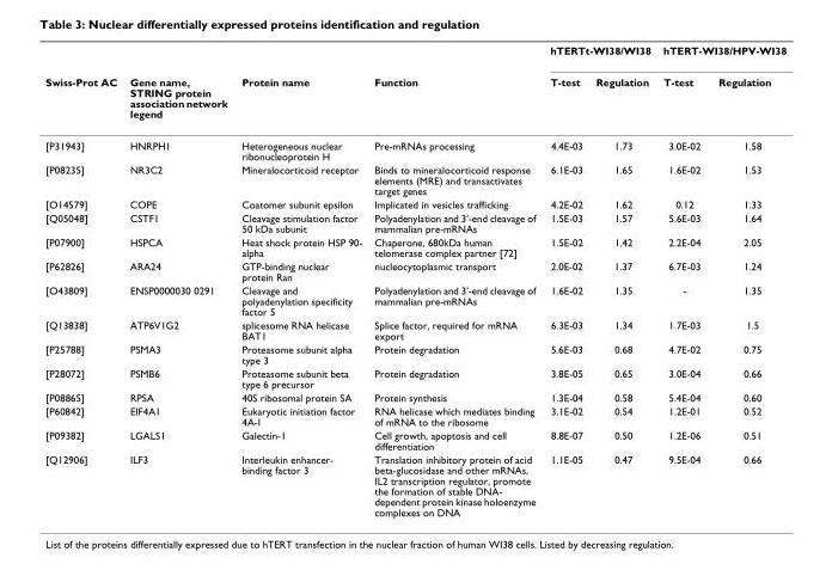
<table><thead><tr><td rowspan="2">Swiss-Prot AC</td><td rowspan="2">Gene name, STRING protein association network legend</td><td rowspan="2">Protein name</td><td rowspan="2">Function</td><td colspan="2">hTERTt-WI38/WI38</td><td colspan="2">hTERT-WI38/HPV-WI38</td></tr><tr><td>T-test</td><td>Regulation</td><td>T-test</td><td>Regulation</td></tr></thead><tbody><tr><td>[P31943]</td><td>HNRPH1</td><td>Heterogeneous nuclear ribonucleoprotein H</td><td>Pre-mRNAs processing</td><td>4.4E-03</td><td>1.73</td><td>3.0E-02</td><td>1.58</td></tr><tr><td>[P08235]</td><td>NR3C2</td><td>Mineralocorticoid receptor</td><td>Binds to mineralocorticoid response elements (MRE) and transactivates target genes</td><td>6.1E-03</td><td>1.65</td><td>1.6E-02</td><td>1.53</td></tr><tr><td>[O14579]</td><td>COPE</td><td>Coatomer subunit epsilon</td><td>Implicated in vesicles trafficking</td><td>4.2E-02</td><td>1.62</td><td>0.12</td><td>1.33</td></tr><tr><td>[Q05048]</td><td>CSTF1</td><td>Cleavage stimulation factor 50 kDa subunit</td><td>Polyadenylation and 3&#x27;-end cleavage of mammalian pre-mRNAs</td><td>1.5E-03</td><td>1.57</td><td>5.6E-03</td><td>1.64</td></tr><tr><td>[P07900]</td><td>HSPCA</td><td>Heat shock protein HSP 90- alpha</td><td>Chaperone, 680kDa human telomerase complex partner [72]</td><td>1.5E-02</td><td>1.42</td><td>2.2E-04</td><td>2.05</td></tr><tr><td>[P62826]</td><td>ARA24</td><td>GTP-binding nuclear protein Ran</td><td>nucleocytoplasmic transport</td><td>2.0E-02</td><td>1.37</td><td>6.7E-03</td><td>1.24</td></tr><tr><td>[O43809]</td><td>ENSP0000030 0291</td><td>Cleavage and polyadenylation specificity factor 5</td><td>Polyadenylation and 3&#x27;-end cleavage of mammalian pre-mRNAs</td><td>1.6E-02</td><td>1.35</td><td>-</td><td>1.35</td></tr><tr><td>[Q13838]</td><td>ATP6V1G2</td><td>splicesome RNA helicase BAT1</td><td>Splice factor, required for mRNA export</td><td>6.3E-03</td><td>1.34</td><td>1.7E-03</td><td>1.5</td></tr><tr><td>[P25788]</td><td>PSMA3</td><td>Proteasome subunit alpha type 3</td><td>Protein degradation</td><td>5.6E-03</td><td>0.68</td><td>4.7E-02</td><td>0.75</td></tr><tr><td>[P28072]</td><td>PSMB6</td><td>Proteasome subunit beta type 6 precursor</td><td>Protein degradation</td><td>3.8E-05</td><td>0.65</td><td>3.0E-04</td><td>0.66</td></tr><tr><td>[P08865]</td><td>RPSA</td><td>40S ribosomal protein SA</td><td>Protein synthesis</td><td>1.3E-04</td><td>0.58</td><td>5.4E-04</td><td>0.60</td></tr><tr><td>[P60842]</td><td>EIF4A1</td><td>Eukaryotic initiation factor 4A-I</td><td>RNA helicase which mediates binding of mRNA to the ribosome</td><td>3.1E-02</td><td>0.54</td><td>1.2E-01</td><td>0.52</td></tr><tr><td>[P09382]</td><td>LGALS1</td><td>Galectin-1</td><td>Cell growth, apoptosis and cell differentiation</td><td>8.8E-07</td><td>0.50</td><td>1.2E-06</td><td>0.51</td></tr><tr><td>[Q12906]</td><td>ILF3</td><td>Interleukin enhancer- binding factor 3</td><td>Translation inhibitory protein of acid beta-glucosidase and other mRNAs, IL2 transcription regulator, promote the formation of stable DNA- dependent protein kinase holoenzyme complexes on DNA</td><td>1.1E-05</td><td>0.47</td><td>9.5E-04</td><td>0.66</td></tr></tbody></table>